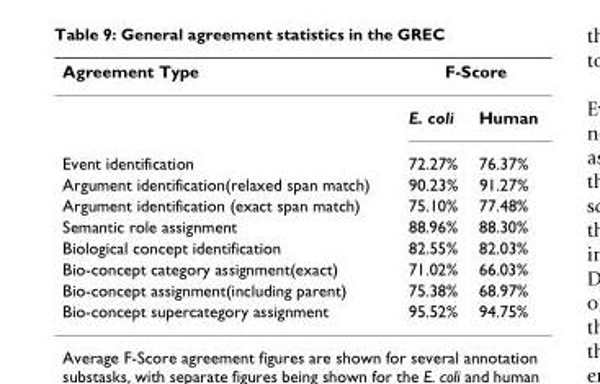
<table><thead><tr><td rowspan="2">Agreement Type</td><td colspan="2">F-Score</td></tr><tr><td>E. coli</td><td>Human</td></tr></thead><tbody><tr><td>Event identification</td><td>72.27%</td><td>76.37%</td></tr><tr><td>Argument identification(relaxed span match)</td><td>90.23%</td><td>91.27%</td></tr><tr><td>Argument identification (exact span match)</td><td>75.10%</td><td>77.48%</td></tr><tr><td>Semantic role assignment</td><td>88.96%</td><td>88.30%</td></tr><tr><td>Biological concept identification</td><td>82.55%</td><td>82.03%</td></tr><tr><td>Bio-concept category assignment(exact)</td><td>71.02%</td><td>66.03%</td></tr><tr><td>Bio-concept assignment(including parent)</td><td>75.38%</td><td>68.97%</td></tr><tr><td>Bio-concept supercategory assignment</td><td>95.52%</td><td>94.75%</td></tr></tbody></table>